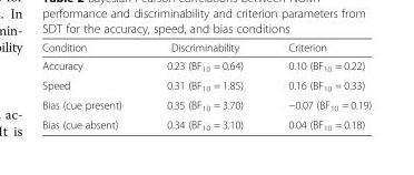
<table><thead><tr><td>Condition</td><td>Discriminability</td><td>Criterion</td></tr></thead><tbody><tr><td>Accuracy</td><td>0.23 (BF<sub>10</sub> = 0.64)</td><td>0.10 (BF<sub>10</sub> = 0.22)</td></tr><tr><td>Speed</td><td>0.31 (BF<sub>10</sub> = 1.85)</td><td>0.16 (BF<sub>10</sub> = 0.33)</td></tr><tr><td>Bias (cue present)</td><td>0.35 (BF<sub>10</sub> = 3.70)</td><td>−0.07 (BF<sub>10</sub> = 0.19)</td></tr><tr><td>Bias (cue absent)</td><td>0.34 (BF<sub>10</sub> = 3.10)</td><td>0.04 (BF<sub>10</sub> = 0.18)</td></tr></tbody></table>